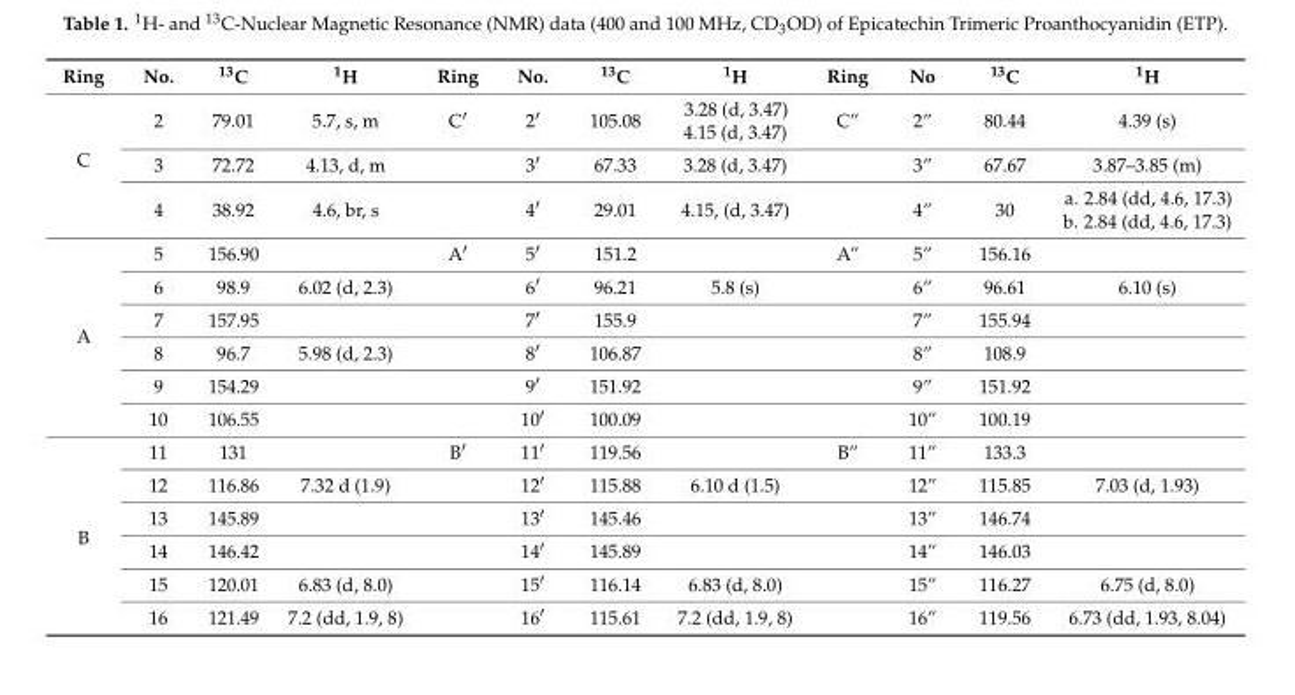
<table><thead><tr><td>Ring</td><td>No.</td><td><sup>13</sup>C</td><td><sup>1</sup>H</td><td>Ring</td><td>No.</td><td><sup>13</sup>C</td><td><sup>1</sup>H</td><td>Ring</td><td>No</td><td><sup>13</sup>C</td><td><sup>1</sup>H</td></tr></thead><tbody><tr><td rowspan="3">C</td><td>2</td><td>79.01</td><td>5.7, s, m</td><td>C′</td><td>2′</td><td>105.08</td><td>3.28 (d, 3.47) 4.15 (d, 3.47)</td><td>C”</td><td>2”</td><td>80.44</td><td>4.39 (s)</td></tr><tr><td>3</td><td>72.72</td><td>4.13, d, m</td><td></td><td>3′</td><td>67.33</td><td>3.28 (d, 3.47)</td><td></td><td>3”</td><td>67.67</td><td>3.87–3.85 (m)</td></tr><tr><td>4</td><td>38.92</td><td>4.6, br, s</td><td></td><td>4′</td><td>29.01</td><td>4.15, (d, 3.47)</td><td></td><td>4”</td><td>30</td><td>a. 2.84 (dd, 4.6, 17.3) b. 2.84 (dd, 4.6, 17.3)</td></tr><tr><td rowspan="6">A</td><td>5</td><td>156.90</td><td></td><td>A′</td><td>5′</td><td>151.2</td><td></td><td>A”</td><td>5”</td><td>156.16</td><td></td></tr><tr><td>6</td><td>98.9</td><td>6.02 (d, 2.3)</td><td></td><td>6′</td><td>96.21</td><td>5.8 (s)</td><td></td><td>6”</td><td>96.61</td><td>6.10 (s)</td></tr><tr><td>7</td><td>157.95</td><td></td><td></td><td>7′</td><td>155.9</td><td></td><td></td><td>7”</td><td>155.94</td><td></td></tr><tr><td>8</td><td>96.7</td><td>5.98 (d, 2.3)</td><td></td><td>8′</td><td>106.87</td><td></td><td></td><td>8”</td><td>108.9</td><td></td></tr><tr><td>9</td><td>154.29</td><td></td><td></td><td>9′</td><td>151.92</td><td></td><td></td><td>9”</td><td>151.92</td><td></td></tr><tr><td>10</td><td>106.55</td><td></td><td></td><td>10′</td><td>100.09</td><td></td><td></td><td>10”</td><td>100.19</td><td></td></tr><tr><td rowspan="6">B</td><td>11</td><td>131</td><td></td><td>B′</td><td>11′</td><td>119.56</td><td></td><td>B”</td><td>11”</td><td>133.3</td><td></td></tr><tr><td>12</td><td>116.86</td><td>7.32 d (1.9)</td><td></td><td>12′</td><td>115.88</td><td>6.10 d (1.5)</td><td></td><td>12”</td><td>115.85</td><td>7.03 (d, 1.93)</td></tr><tr><td>13</td><td>145.89</td><td></td><td></td><td>13′</td><td>145.46</td><td></td><td></td><td>13”</td><td>146.74</td><td></td></tr><tr><td>14</td><td>146.42</td><td></td><td></td><td>14′</td><td>145.89</td><td></td><td></td><td>14”</td><td>146.03</td><td></td></tr><tr><td>15</td><td>120.01</td><td>6.83 (d, 8.0)</td><td></td><td>15′</td><td>116.14</td><td>6.83 (d, 8.0)</td><td></td><td>15”</td><td>116.27</td><td>6.75 (d, 8.0)</td></tr><tr><td>16</td><td>121.49</td><td>7.2 (dd, 1.9, 8)</td><td></td><td>16′</td><td>115.61</td><td>7.2 (dd, 1.9, 8)</td><td></td><td>16”</td><td>119.56</td><td>6.73 (dd, 1.93, 8.04)</td></tr></tbody></table>